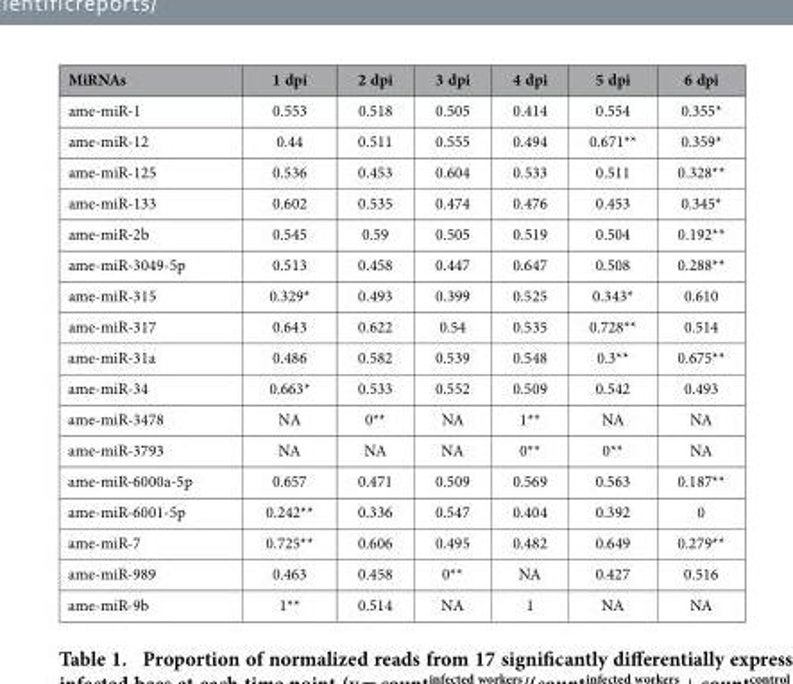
<table><thead><tr><td>MiRNAs</td><td>1 dpi</td><td>2 dpi</td><td>3 dpi</td><td>4 dpi</td><td>5 dpi</td><td>6 dpi</td></tr></thead><tbody><tr><td>ame-miR-1</td><td>0.553</td><td>0.518</td><td>0.505</td><td>0.414</td><td>0.554</td><td>0.355*</td></tr><tr><td>ame-miR-12</td><td>0.44</td><td>0.511</td><td>0.555</td><td>0.494</td><td>0.671**</td><td>0.359*</td></tr><tr><td>ame-miR-125</td><td>0.536</td><td>0.453</td><td>0.604</td><td>0.533</td><td>0.511</td><td>0.328**</td></tr><tr><td>ame-miR-133</td><td>0.602</td><td>0.535</td><td>0.474</td><td>0.476</td><td>0.453</td><td>0.345*</td></tr><tr><td>ame-miR-2b</td><td>0.545</td><td>0.59</td><td>0.505</td><td>0.519</td><td>0.504</td><td>0.192**</td></tr><tr><td>ame-miR-3049-5p</td><td>0.513</td><td>0.458</td><td>0.447</td><td>0.647</td><td>0.508</td><td>0.288**</td></tr><tr><td>ame-miR-315</td><td>0.329*</td><td>0.493</td><td>0.399</td><td>0.525</td><td>0.343*</td><td>0.610</td></tr><tr><td>ame-miR-317</td><td>0.643</td><td>0.622</td><td>0.54</td><td>0.535</td><td>0.728**</td><td>0.514</td></tr><tr><td>ame-miR-31a</td><td>0.486</td><td>0.582</td><td>0.539</td><td>0.548</td><td>0.3**</td><td>0.675**</td></tr><tr><td>ame-miR-34</td><td>0.663*</td><td>0.533</td><td>0.552</td><td>0.509</td><td>0.542</td><td>0.493</td></tr><tr><td>ame-miR-3478</td><td>NA</td><td>0**</td><td>NA</td><td>1**</td><td>NA</td><td>NA</td></tr><tr><td>ame-miR-3793</td><td>NA</td><td>NA</td><td>NA</td><td>0**</td><td>0**</td><td>NA</td></tr><tr><td>ame-miR-6000a-5p</td><td>0.657</td><td>0.471</td><td>0.509</td><td>0.569</td><td>0.563</td><td>0.187**</td></tr><tr><td>ame-miR-6001-5p</td><td>0.242**</td><td>0.336</td><td>0.547</td><td>0.404</td><td>0.392</td><td>0</td></tr><tr><td>ame-miR-7</td><td>0.725**</td><td>0.606</td><td>0.495</td><td>0.482</td><td>0.649</td><td>0.279**</td></tr><tr><td>ame-miR-989</td><td>0.463</td><td>0.458</td><td>0**</td><td>NA</td><td>0.427</td><td>0.516</td></tr><tr><td>ame-miR-9b</td><td>1**</td><td>0.514</td><td>NA</td><td>1</td><td>NA</td><td>NA</td></tr></tbody></table>